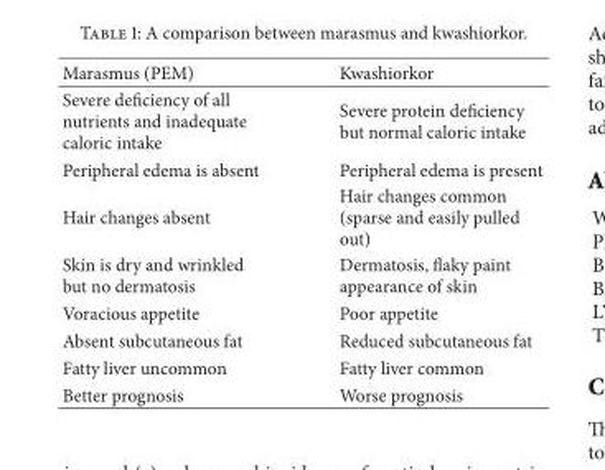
<table><thead><tr><td>Marasmus (PEM)</td><td>Kwashiorkor</td></tr></thead><tbody><tr><td>Severe deficiency of all nutrients and inadequate caloric intake</td><td>Severe protein deficiency but normal caloric intake</td></tr><tr><td>Peripheral edema is absent</td><td>Peripheral edema is present</td></tr><tr><td>Hair changes absent</td><td>Hair changes common (sparse and easily pulled out)</td></tr><tr><td>Skin is dry and wrinkled but no dermatosis</td><td>Dermatosis, flaky paint appearance of skin</td></tr><tr><td>Voracious appetite</td><td>Poor appetite</td></tr><tr><td>Absent subcutaneous fat</td><td>Reduced subcutaneous fat</td></tr><tr><td>Fatty liver uncommon</td><td>Fatty liver common</td></tr><tr><td>Better prognosis</td><td>Worse prognosis</td></tr></tbody></table>